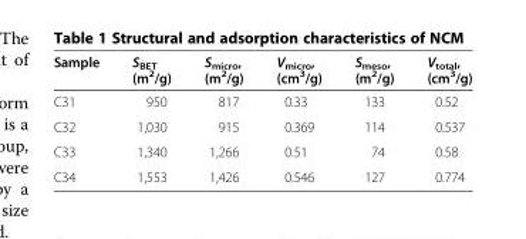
<table><thead><tr><td>Sample</td><td>S<sub>BET</sub> (m<sup>2</sup>/g)</td><td>S<sub>micro</sub>, (m<sup>2</sup>/g)</td><td>V<sub>micro</sub>, (cm<sup>3</sup>/g)</td><td>S<sub>meso</sub>, (m<sup>2</sup>/g)</td><td>V<sub>total</sub>, (cm<sup>3</sup>/g)</td></tr></thead><tbody><tr><td>С31</td><td>950</td><td>817</td><td>0.33</td><td>133</td><td>0.52</td></tr><tr><td>С32</td><td>1,030</td><td>915</td><td>0.369</td><td>114</td><td>0.537</td></tr><tr><td>С33</td><td>1,340</td><td>1,266</td><td>0.51</td><td>74</td><td>0.58</td></tr><tr><td>С34</td><td>1,553</td><td>1,426</td><td>0.546</td><td>127</td><td>0.774</td></tr></tbody></table>